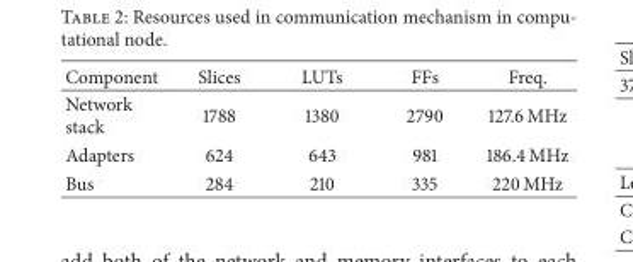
<table><thead><tr><td>Component</td><td>Slices</td><td>LUTs</td><td>FFs</td><td>Freq.</td></tr></thead><tbody><tr><td>Network stack</td><td>1788</td><td>1380</td><td>2790</td><td>127.6 MHz</td></tr><tr><td>Adapters</td><td>624</td><td>643</td><td>981</td><td>186.4 MHz</td></tr><tr><td>Bus</td><td>284</td><td>210</td><td>335</td><td>220 MHz</td></tr></tbody></table>